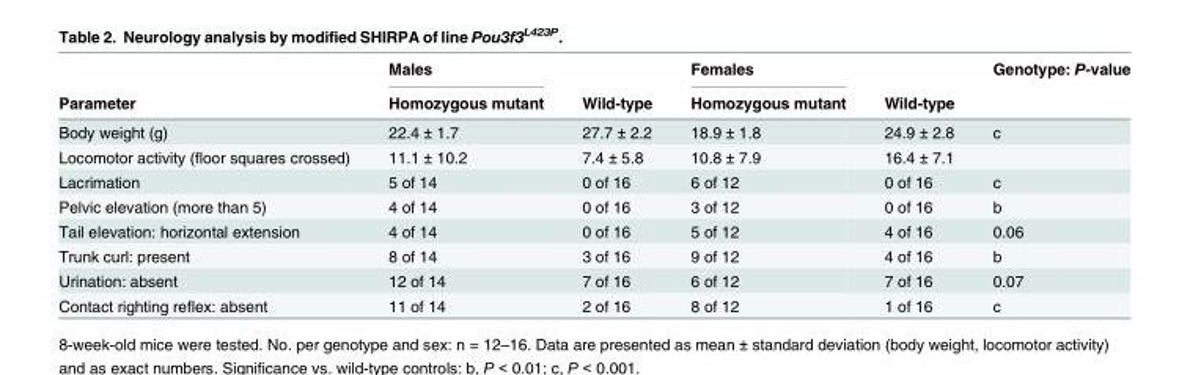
<table><thead><tr><td rowspan="2">Parameter</td><td rowspan="2">Males Homozygous mutant</td><td rowspan="2">Wild-type</td><td rowspan="2">Females Homozygous mutant</td><td rowspan="2">Wild-type</td><td rowspan="2">Genotype: P-value</td></tr><tr></tr></thead><tbody><tr><td>Body weight (g)</td><td>22.4 ± 1.7</td><td>27.7 ± 2.2</td><td>18.9 ± 1.8</td><td>24.9 ± 2.8</td><td>c</td></tr><tr><td>Locomotor activity (floor squares crossed)</td><td>11.1 ± 10.2</td><td>7.4 ± 5.8</td><td>10.8 ± 7.9</td><td>16.4 ± 7.1</td><td></td></tr><tr><td>Lacrimation</td><td>5 of 14</td><td>0 of 16</td><td>6 of 12</td><td>0 of 16</td><td>c</td></tr><tr><td>Pelvic elevation (more than 5)</td><td>4 of 14</td><td>0 of 16</td><td>3 of 12</td><td>0 of 16</td><td>b</td></tr><tr><td>Tail elevation: horizontal extension</td><td>4 of 14</td><td>0 of 16</td><td>5 of 12</td><td>4 of 16</td><td>0.06</td></tr><tr><td>Trunk curl: present</td><td>8 of 14</td><td>3 of 16</td><td>9 of 12</td><td>4 of 16</td><td>b</td></tr><tr><td>Urination: absent</td><td>12 of 14</td><td>7 of 16</td><td>6 of 12</td><td>7 of 16</td><td>0.07</td></tr><tr><td>Contact righting reflex: absent</td><td>11 of 14</td><td>2 of 16</td><td>8 of 12</td><td>1 of 16</td><td>c</td></tr></tbody></table>